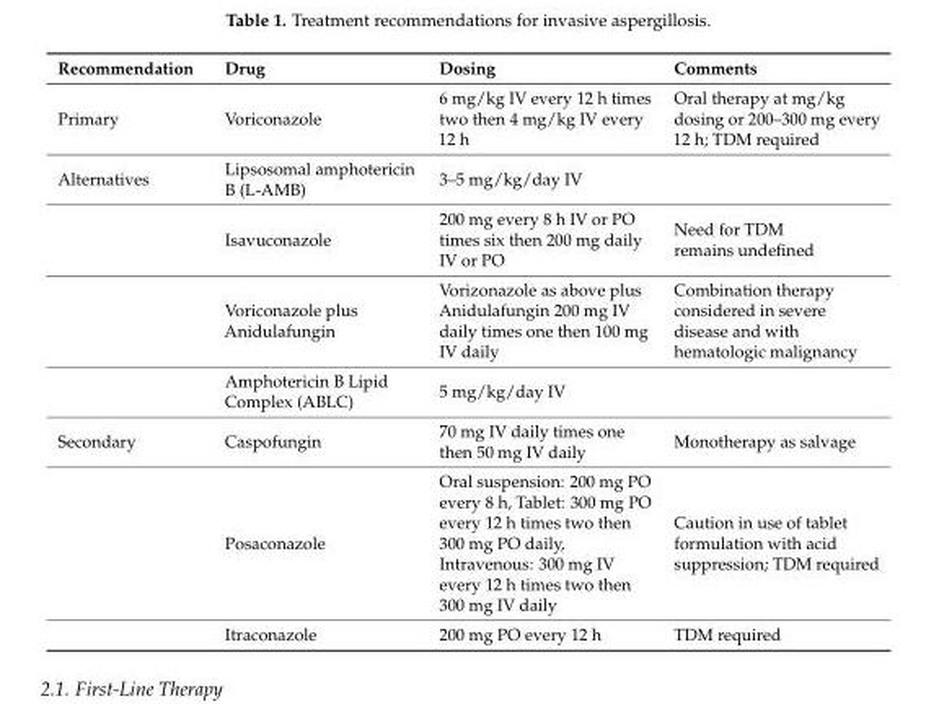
<table><thead><tr><td>Recommendation</td><td>Drug</td><td>Dosing</td><td>Comments</td></tr></thead><tbody><tr><td>Primary</td><td>Voriconazole</td><td>6 mg/kg IV every 12 h times two then 4 mg/kg IV every 12 h</td><td>Oral therapy at mg/kg dosing or 200–300 mg every 12 h; TDM required</td></tr><tr><td rowspan="4">Alternatives</td><td>Lipsosomal amphotericin B (L-AMB)</td><td>3–5 mg/kg/day IV</td><td></td></tr><tr><td>Isavuconazole</td><td>200 mg every 8 h IV or PO times six then 200 mg daily IV or PO</td><td>Need for TDM remains undefined</td></tr><tr><td>Voriconazole plus Anidulafungin</td><td>Vorizonazole as above plus Anidulafungin 200 mg IV daily times one then 100 mg IV daily</td><td>Combination therapy considered in severe disease and with hematologic malignancy</td></tr><tr><td>Amphotericin B Lipid Complex (ABLC)</td><td>5 mg/kg/day IV</td><td></td></tr><tr><td rowspan="3">Secondary</td><td>Caspofungin</td><td>70 mg IV daily times one then 50 mg IV daily</td><td>Monotherapy as salvage</td></tr><tr><td>Posaconazole</td><td>Oral suspension: 200 mg PO every 8 h, Tablet: 300 mg PO every 12 h times two then 300 mg PO daily, Intravenous: 300 mg IV every 12 h times two then 300 mg IV daily</td><td>Caution in use of tablet formulation with acid suppression; TDM required</td></tr><tr><td>Itraconazole</td><td>200 mg PO every 12 h</td><td>TDM required</td></tr></tbody></table>